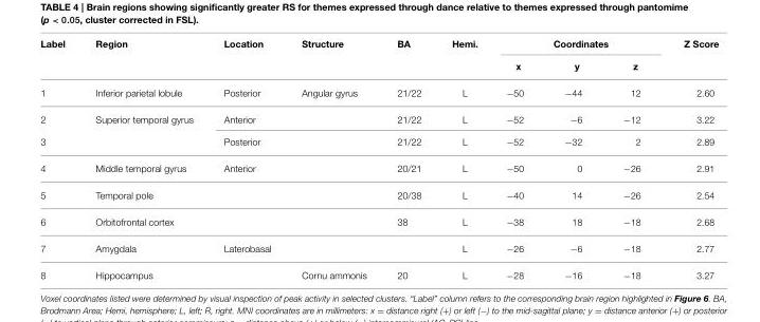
<table><thead><tr><td rowspan="2">Label</td><td rowspan="2">Region</td><td rowspan="2">Location</td><td rowspan="2">Structure</td><td rowspan="2">BA</td><td rowspan="2">Hemi.</td><td colspan="3">Coordinates</td><td rowspan="2">Z Score</td></tr><tr><td>x</td><td>y</td><td>z</td></tr></thead><tbody><tr><td>1</td><td>Inferior parietal lobule</td><td>Posterior</td><td>Angular gyrus</td><td>21/22</td><td>L</td><td>−50</td><td>−44</td><td>12</td><td>2.60</td></tr><tr><td>2</td><td>Superior temporal gyrus</td><td>Anterior</td><td></td><td>21/22</td><td>L</td><td>−52</td><td>−6</td><td>−12</td><td>3.22</td></tr><tr><td>3</td><td></td><td>Posterior</td><td></td><td>21/22</td><td>L</td><td>−52</td><td>−32</td><td>2</td><td>2.89</td></tr><tr><td>4</td><td>Middle temporal gyrus</td><td>Anterior</td><td></td><td>20/21</td><td>L</td><td>−50</td><td>0</td><td>−26</td><td>2.91</td></tr><tr><td>5</td><td>Temporal pole</td><td></td><td></td><td>20/38</td><td>L</td><td>−40</td><td>14</td><td>−26</td><td>2.54</td></tr><tr><td>6</td><td>Orbitofrontal cortex</td><td></td><td></td><td>38</td><td>L</td><td>−38</td><td>18</td><td>−18</td><td>2.68</td></tr><tr><td>7</td><td>Amygdala</td><td>Laterobasal</td><td></td><td></td><td>L</td><td>−26</td><td>−6</td><td>−18</td><td>2.77</td></tr><tr><td>8</td><td>Hippocampus</td><td></td><td>Cornu ammonis</td><td>20</td><td>L</td><td>−28</td><td>−16</td><td>−18</td><td>3.27</td></tr></tbody></table>